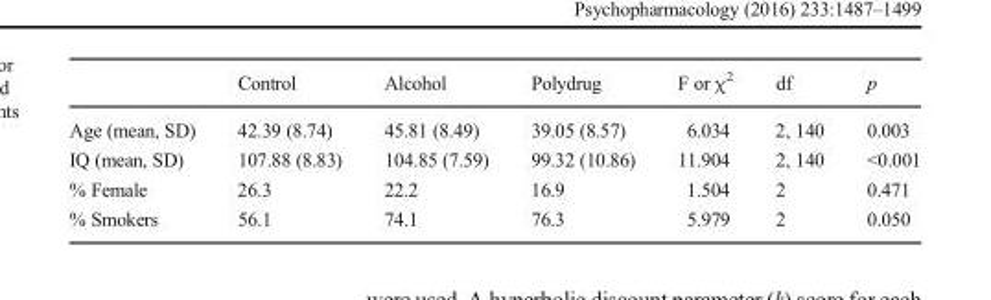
<table><thead><tr><td></td><td>Control</td><td>Alcohol</td><td>Polydrug</td><td>F or χ<sup>2</sup></td><td>df</td><td>p</td></tr></thead><tbody><tr><td>Age (mean, SD)</td><td>42.39 (8.74)</td><td>45.81 (8.49)</td><td>39.05 (8.57)</td><td>6.034</td><td>2, 140</td><td>0.003</td></tr><tr><td>IQ (mean, SD)</td><td>107.88 (8.83)</td><td>104.85 (7.59)</td><td>99.32 (10.86)</td><td>11.904</td><td>2, 140</td><td>&lt;0.001</td></tr><tr><td>% Female</td><td>26.3</td><td>22.2</td><td>16.9</td><td>1.504</td><td>2</td><td>0.471</td></tr><tr><td>% Smokers</td><td>56.1</td><td>74.1</td><td>76.3</td><td>5.979</td><td>2</td><td>0.050</td></tr></tbody></table>